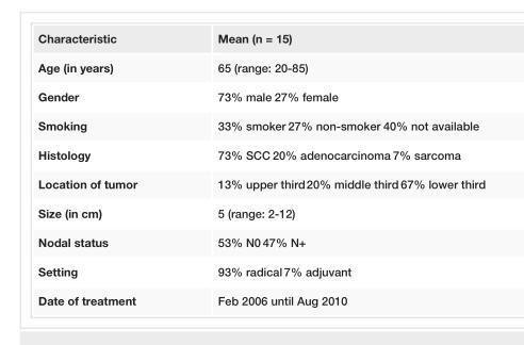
<table><tbody><tr><td>Characteristic</td><td>Mean (n = 15)</td></tr><tr><td>Age (in years)</td><td>65 (range: 20-85)</td></tr><tr><td>Gender</td><td>73% male 27% female</td></tr><tr><td>Smoking</td><td>33% smoker 27% non-smoker 40% not available</td></tr><tr><td>Histology</td><td>73% SCC 20% adenocarcinoma 7% sarcoma</td></tr><tr><td>Location of tumor</td><td>13% upper third 20% middle third 67% lower third</td></tr><tr><td>Size (in cm)</td><td>5 (range: 2-12)</td></tr><tr><td>Nodal status</td><td>53% N0 47% N+</td></tr><tr><td>Setting</td><td>93% radical 7% adjuvant</td></tr><tr><td>Date of treatment</td><td>Feb 2006 until Aug 2010</td></tr></tbody></table>